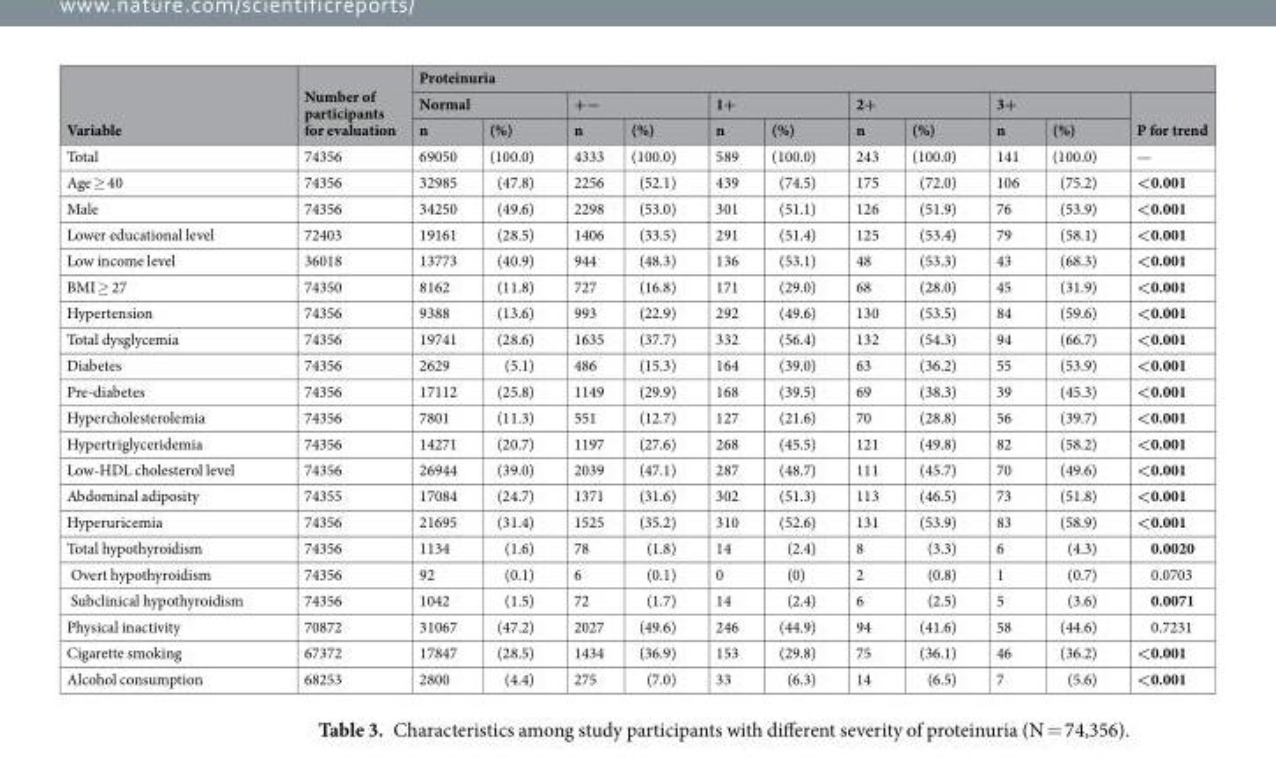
<table><thead><tr><td rowspan="3">Variable</td><td rowspan="3">Number of participants for evaluation</td><td colspan="11">Proteinuria</td></tr><tr><td colspan="2">Normal</td><td colspan="2">+−</td><td colspan="2">1+</td><td colspan="2">2+</td><td colspan="2">3+</td><td rowspan="2">P for trend</td></tr><tr><td>n</td><td>(%)</td><td>n</td><td>(%)</td><td>n</td><td>(%)</td><td>n</td><td>(%)</td><td>n</td><td>(%)</td></tr></thead><tbody><tr><td>Total</td><td>74356</td><td>69050</td><td>(100.0)</td><td>4333</td><td>(100.0)</td><td>589</td><td>(100.0)</td><td>243</td><td>(100.0)</td><td>141</td><td>(100.0)</td><td>—</td></tr><tr><td>Age ≥ 40</td><td>74356</td><td>32985</td><td>(47.8)</td><td>2256</td><td>(52.1)</td><td>439</td><td>(74.5)</td><td>175</td><td>(72.0)</td><td>106</td><td>(75.2)</td><td>&lt;0.001</td></tr><tr><td>Male</td><td>74356</td><td>34250</td><td>(49.6)</td><td>2298</td><td>(53.0)</td><td>301</td><td>(51.1)</td><td>126</td><td>(51.9)</td><td>76</td><td>(53.9)</td><td>&lt;0.001</td></tr><tr><td>Lower educational level</td><td>72403</td><td>19161</td><td>(28.5)</td><td>1406</td><td>(33.5)</td><td>291</td><td>(51.4)</td><td>125</td><td>(53.4)</td><td>79</td><td>(58.1)</td><td>&lt;0.001</td></tr><tr><td>Low income level</td><td>36018</td><td>13773</td><td>(40.9)</td><td>944</td><td>(48.3)</td><td>136</td><td>(53.1)</td><td>48</td><td>(53.3)</td><td>43</td><td>(68.3)</td><td>&lt;0.001</td></tr><tr><td>BMI ≥ 27</td><td>74350</td><td>8162</td><td>(11.8)</td><td>727</td><td>(16.8)</td><td>171</td><td>(29.0)</td><td>68</td><td>(28.0)</td><td>45</td><td>(31.9)</td><td>&lt;0.001</td></tr><tr><td>Hypertension</td><td>74356</td><td>9388</td><td>(13.6)</td><td>993</td><td>(22.9)</td><td>292</td><td>(49.6)</td><td>130</td><td>(53.5)</td><td>84</td><td>(59.6)</td><td>&lt;0.001</td></tr><tr><td>Total dysglycemia</td><td>74356</td><td>19741</td><td>(28.6)</td><td>1635</td><td>(37.7)</td><td>332</td><td>(56.4)</td><td>132</td><td>(54.3)</td><td>94</td><td>(66.7)</td><td>&lt;0.001</td></tr><tr><td>Diabetes</td><td>74356</td><td>2629</td><td>(5.1)</td><td>486</td><td>(15.3)</td><td>164</td><td>(39.0)</td><td>63</td><td>(36.2)</td><td>55</td><td>(53.9)</td><td>&lt;0.001</td></tr><tr><td>Pre-diabetes</td><td>74356</td><td>17112</td><td>(25.8)</td><td>1149</td><td>(29.9)</td><td>168</td><td>(39.5)</td><td>69</td><td>(38.3)</td><td>39</td><td>(45.3)</td><td>&lt;0.001</td></tr><tr><td>Hypercholesterolemia</td><td>74356</td><td>7801</td><td>(11.3)</td><td>551</td><td>(12.7)</td><td>127</td><td>(21.6)</td><td>70</td><td>(28.8)</td><td>56</td><td>(39.7)</td><td>&lt;0.001</td></tr><tr><td>Hypertriglyceridemia</td><td>74356</td><td>14271</td><td>(20.7)</td><td>1197</td><td>(27.6)</td><td>268</td><td>(45.5)</td><td>121</td><td>(49.8)</td><td>82</td><td>(58.2)</td><td>&lt;0.001</td></tr><tr><td>Low-HDL cholesterol level</td><td>74356</td><td>26944</td><td>(39.0)</td><td>2039</td><td>(47.1)</td><td>287</td><td>(48.7)</td><td>111</td><td>(45.7)</td><td>70</td><td>(49.6)</td><td>&lt;0.001</td></tr><tr><td>Abdominal adiposity</td><td>74355</td><td>17084</td><td>(24.7)</td><td>1371</td><td>(31.6)</td><td>302</td><td>(51.3)</td><td>113</td><td>(46.5)</td><td>73</td><td>(51.8)</td><td>&lt;0.001</td></tr><tr><td>Hyperuricemia</td><td>74356</td><td>21695</td><td>(31.4)</td><td>1525</td><td>(35.2)</td><td>310</td><td>(52.6)</td><td>131</td><td>(53.9)</td><td>83</td><td>(58.9)</td><td>&lt;0.001</td></tr><tr><td>Total hypothyroidism</td><td>74356</td><td>1134</td><td>(1.6)</td><td>78</td><td>(1.8)</td><td>14</td><td>(2.4)</td><td>8</td><td>(3.3)</td><td>6</td><td>(4.3)</td><td>0.0020</td></tr><tr><td>Overt hypothyroidism</td><td>74356</td><td>92</td><td>(0.1)</td><td>6</td><td>(0.1)</td><td>0</td><td>(0)</td><td>2</td><td>(0.8)</td><td>1</td><td>(0.7)</td><td>0.0703</td></tr><tr><td>Subclinical hypothyroidism</td><td>74356</td><td>1042</td><td>(1.5)</td><td>72</td><td>(1.7)</td><td>14</td><td>(2.4)</td><td>6</td><td>(2.5)</td><td>5</td><td>(3.6)</td><td>0.0071</td></tr><tr><td>Physical inactivity</td><td>70872</td><td>31067</td><td>(47.2)</td><td>2027</td><td>(49.6)</td><td>246</td><td>(44.9)</td><td>94</td><td>(41.6)</td><td>58</td><td>(44.6)</td><td>0.7231</td></tr><tr><td>Cigarette smoking</td><td>67372</td><td>17847</td><td>(28.5)</td><td>1434</td><td>(36.9)</td><td>153</td><td>(29.8)</td><td>75</td><td>(36.1)</td><td>46</td><td>(36.2)</td><td>&lt;0.001</td></tr><tr><td>Alcohol consumption</td><td>68253</td><td>2800</td><td>(4.4)</td><td>275</td><td>(7.0)</td><td>33</td><td>(6.3)</td><td>14</td><td>(6.5)</td><td>7</td><td>(5.6)</td><td>&lt;0.001</td></tr></tbody></table>